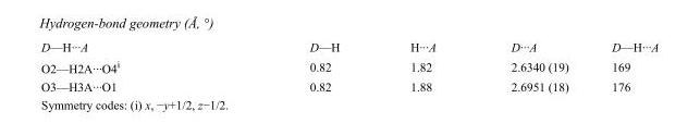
<table><tbody><tr><td>D—H···A</td><td>D—H</td><td>H···A</td><td>D···A</td><td>D—H···A</td></tr><tr><td>O2—H2A···O4<sup>i</sup></td><td>0.82</td><td>1.82</td><td>2.6340 (19)</td><td>169</td></tr><tr><td>O3—H3A···O1</td><td>0.82</td><td>1.88</td><td>2.6951 (18)</td><td>176</td></tr></tbody></table>